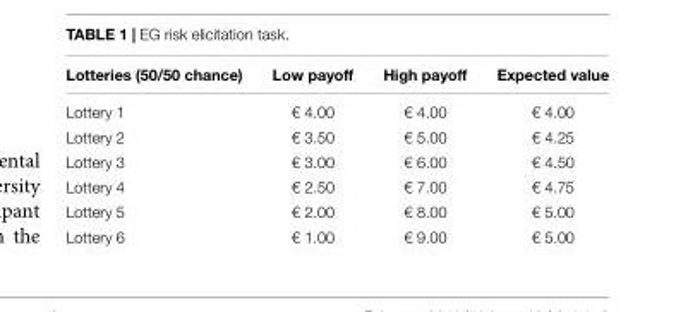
<table><thead><tr><td>Lotteries (50/50 chance)</td><td>Low payoff</td><td>High payoff</td><td>Expected value</td></tr></thead><tbody><tr><td>Lottery 1</td><td>€ 4.00</td><td>€ 4.00</td><td>€ 4.00</td></tr><tr><td>Lottery 2</td><td>€ 3.50</td><td>€ 5.00</td><td>€ 4.25</td></tr><tr><td>Lottery 3</td><td>€ 3.00</td><td>€ 6.00</td><td>€ 4.50</td></tr><tr><td>Lottery 4</td><td>€ 2.50</td><td>€ 7.00</td><td>€ 4.75</td></tr><tr><td>Lottery 5</td><td>€ 2.00</td><td>€ 8.00</td><td>€ 5.00</td></tr><tr><td>Lottery 6</td><td>€ 1.00</td><td>€ 9.00</td><td>€ 5.00</td></tr></tbody></table>